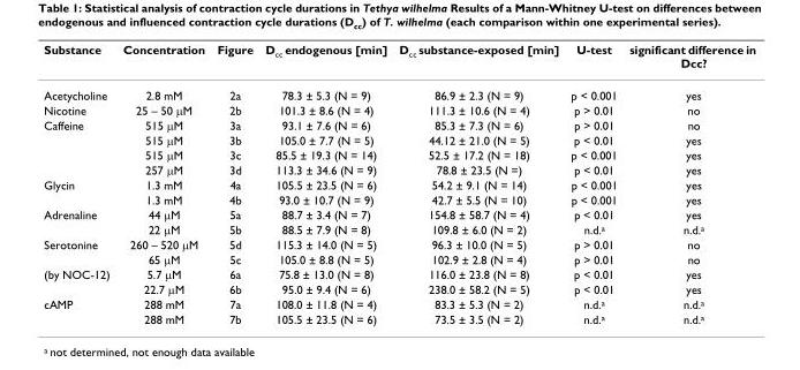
<table><thead><tr><td>Substance</td><td>Concentration</td><td>Figure</td><td>D<sub>cc</sub> endogenous [min]</td><td>D<sub>cc</sub> substance-exposed [min]</td><td>U-test</td><td>significant difference in Dcc?</td></tr></thead><tbody><tr><td>Acetycholine</td><td>2.8 mM</td><td>2a</td><td>78.3 ± 5.3 (N = 9)</td><td>86.9 ± 2.3 (N = 9)</td><td>p &lt; 0.001</td><td>yes</td></tr><tr><td>Nicotine</td><td>25 – 50 µM</td><td>2b</td><td>101.3 ± 8.6 (N = 4)</td><td>111.3 ± 10.6 (N = 4)</td><td>p &gt; 0.01</td><td>no</td></tr><tr><td rowspan="4">Caffeine</td><td>515 µM</td><td>3a</td><td>93.1 ± 7.6 (N = 6)</td><td>85.3 ± 7.3 (N = 6)</td><td>p &gt; 0.01</td><td>no</td></tr><tr><td>515 µM</td><td>3b</td><td>105.0 ± 7.7 (N = 5)</td><td>44.12 ± 21.0 (N = 5)</td><td>p &lt; 0.01</td><td>yes</td></tr><tr><td>515 µM</td><td>3c</td><td>85.5 ± 19.3 (N = 14)</td><td>52.5 ± 17.2 (N = 18)</td><td>p &lt; 0.001</td><td>yes</td></tr><tr><td>257 µM</td><td>3d</td><td>113.3 ± 34.6 (N = 9)</td><td>78.8 ± 23.5 (N =)</td><td>p &lt; 0.01</td><td>yes</td></tr><tr><td rowspan="2">Glycin</td><td>1.3 mM</td><td>4a</td><td>105.5 ± 23.5 (N = 6)</td><td>54.2 ± 9.1 (N = 14)</td><td>p &lt; 0.001</td><td>yes</td></tr><tr><td>1.3 mM</td><td>4b</td><td>93.0 ± 10.7 (N = 9)</td><td>42.7 ± 5.5 (N = 10)</td><td>p &lt; 0.001</td><td>yes</td></tr><tr><td rowspan="2">Adrenaline</td><td>44 µM</td><td>5a</td><td>88.7 ± 3.4 (N = 7)</td><td>154.8 ± 58.7 (N = 4)</td><td>p &lt; 0.01</td><td>yes</td></tr><tr><td>22 µM</td><td>5b</td><td>88.5 ± 7.9 (N = 8)</td><td>109.8 ± 6.0 (N = 2)</td><td>n.d.<sup>a</sup></td><td>n.d.<sup>a</sup></td></tr><tr><td rowspan="2">Serotonine</td><td>260 – 520 µM</td><td>5d</td><td>115.3 ± 14.0 (N = 5)</td><td>96.3 ± 10.0 (N = 5)</td><td>p &gt; 0.01</td><td>no</td></tr><tr><td>65 µM</td><td>5c</td><td>105.0 ± 8.8 (N = 5)</td><td>102.9 ± 2.8 (N = 4)</td><td>p &gt; 0.01</td><td>no</td></tr><tr><td rowspan="2">(by NOC-12)</td><td>5.7 µM</td><td>6a</td><td>75.8 ± 13.0 (N = 8)</td><td>116.0 ± 23.8 (N = 8)</td><td>p &lt; 0.01</td><td>yes</td></tr><tr><td>22.7 µM</td><td>6b</td><td>95.0 ± 9.4 (N = 6)</td><td>238.0 ± 58.2 (N = 5)</td><td>p &lt; 0.01</td><td>yes</td></tr><tr><td rowspan="2">cAMP</td><td>288 mM</td><td>7a</td><td>108.0 ± 11.8 (N = 4)</td><td>83.3 ± 5.3 (N = 2)</td><td>n.d.<sup>a</sup></td><td>n.d.<sup>a</sup></td></tr><tr><td>288 mM</td><td>7b</td><td>105.5 ± 23.5 (N = 6)</td><td>73.5 ± 3.5 (N = 2)</td><td>n.d.<sup>a</sup></td><td>n.d.<sup>a</sup></td></tr></tbody></table>